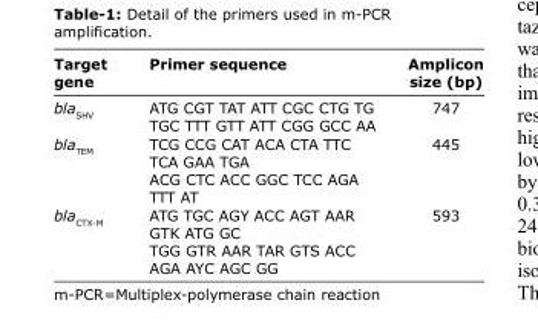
<table><thead><tr><td>Target gene</td><td>Primer sequence</td><td>Amplicon size (bp)</td></tr></thead><tbody><tr><td>bla<sub>SHV</sub></td><td>ATG CGT TAT ATT CGC CTG TG TGC TTT GTT ATT CGG GCC AA</td><td>747</td></tr><tr><td>bla<sub>TEM</sub></td><td>TCG CCG CAT ACA CTA TTC TCA GAA TGA ACG CTC ACC GGC TCC AGA TTT AT</td><td>445</td></tr><tr><td>bla<sub>CTX-M</sub></td><td>ATG TGC AGY ACC AGT AAR GTK ATG GC TGG GTR AAR TAR GTS ACC AGA AYC AGC GG</td><td>593</td></tr></tbody></table>